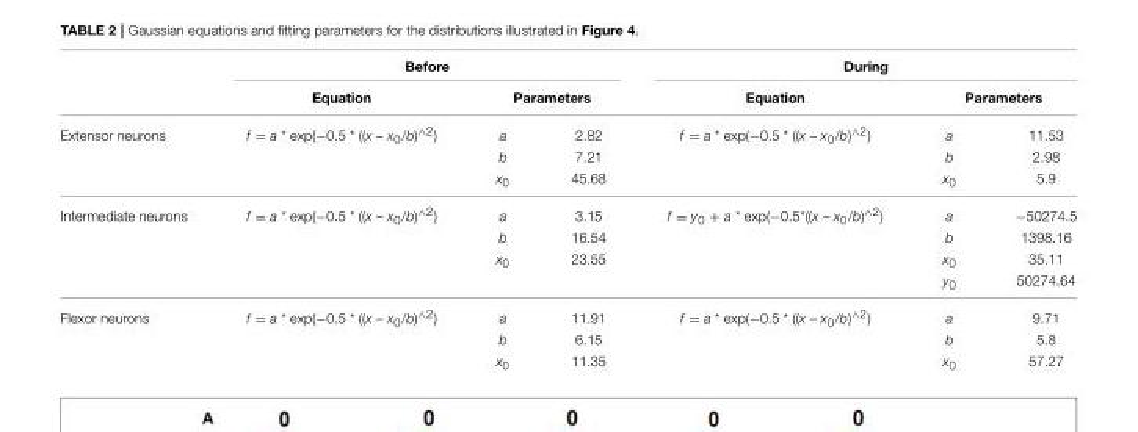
<table><thead><tr><td rowspan="3">Extensor neurons</td><td colspan="3">Before</td><td colspan="3">During</td></tr><tr><td rowspan="2">Equation f = a * exp(−0.5 * ((x – x<sub>0</sub>/b)<sup>∧2</sup>)</td><td colspan="2">Parameters</td><td rowspan="2">Equation f = a * exp(−0.5 * ((x – x<sub>0</sub>/b)<sup>∧2</sup>)</td><td colspan="2">Parameters</td></tr><tr><td>a</td><td>2.82</td><td>a</td><td>11.53</td></tr></thead><tbody><tr><td></td><td></td><td>b</td><td>7.21</td><td></td><td>b</td><td>2.98</td></tr><tr><td></td><td></td><td>x<sub>0</sub></td><td>45.68</td><td></td><td>x<sub>0</sub></td><td>5.9</td></tr><tr><td rowspan="4">Intermediate neurons</td><td>f = a * exp(−0.5 * ((x – x<sub>0</sub>/b)<sup>∧2</sup>)</td><td>a</td><td>3.15</td><td>f = y<sub>0</sub> + a * exp(−0.5*((x – x<sub>0</sub>/b)<sup>∧2</sup>)</td><td>a</td><td>−50274.5</td></tr><tr><td></td><td>b</td><td>16.54</td><td></td><td>b</td><td>1398.16</td></tr><tr><td></td><td>x<sub>0</sub></td><td>23.55</td><td></td><td>x<sub>0</sub></td><td>35.11</td></tr><tr><td></td><td></td><td></td><td></td><td>y<sub>0</sub></td><td>50274.64</td></tr><tr><td rowspan="3">Flexor neurons</td><td>f = a * exp(−0.5 * ((x – x<sub>0</sub>/b)<sup>∧2</sup>)</td><td>a</td><td>11.91</td><td>f = a * exp(−0.5 * ((x – x<sub>0</sub>/b)<sup>∧2</sup>)</td><td>a</td><td>9.71</td></tr><tr><td></td><td>b</td><td>6.15</td><td></td><td>b</td><td>5.8</td></tr><tr><td></td><td>x<sub>0</sub></td><td>11.35</td><td></td><td>x<sub>0</sub></td><td>57.27</td></tr></tbody></table>